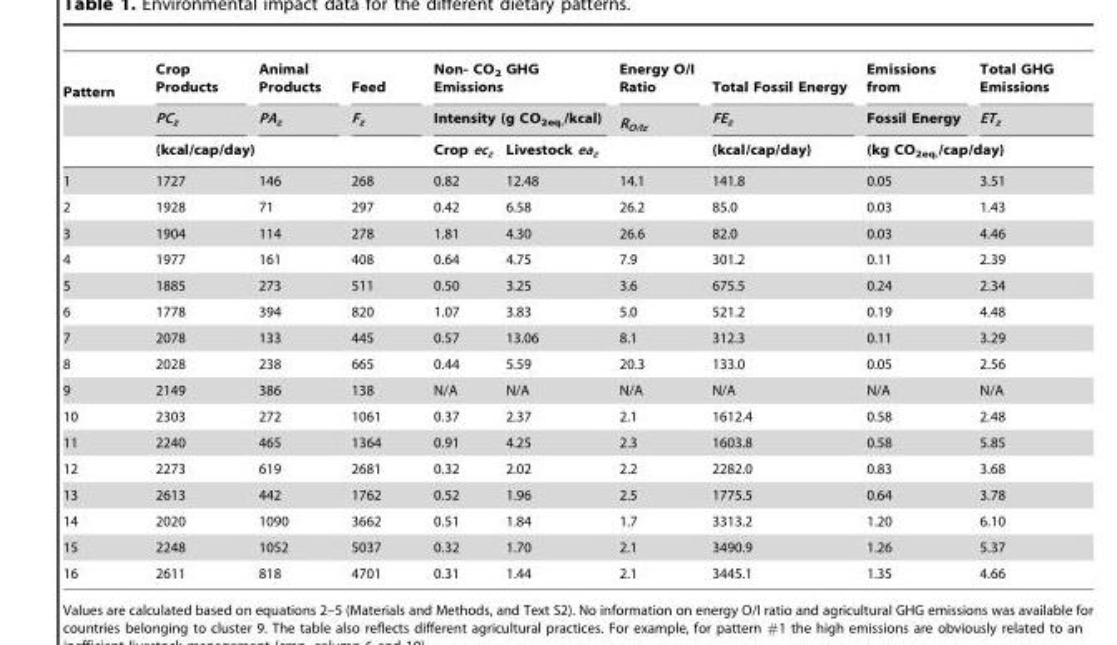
<table><thead><tr><td rowspan="3">Pattern</td><td rowspan="2">Crop Products PC<sub>z</sub></td><td rowspan="2">Animal Products PA<sub>z</sub></td><td rowspan="2">Feed F<sub>z</sub></td><td rowspan="2" colspan="2">Non- CO<sub>2</sub> GHG Emissions Intensity (g CO<sub>2eq.</sub>/kcal)</td><td rowspan="3">Energy O/I Ratio R<sub>O/Iz</sub></td><td rowspan="3">Total Fossil Energy FE<sub>z</sub> (kcal/cap/day)</td><td rowspan="2">Emissions from Fossil Energy</td><td rowspan="2">Total GHG Emissions ET<sub>z</sub></td></tr><tr></tr><tr><td colspan="3">(kcal/cap/day)</td><td>Crop ec<sub>z</sub></td><td>Livestock ea<sub>z</sub></td><td colspan="2">(kg CO<sub>2eq.</sub>/cap/day)</td></tr></thead><tbody><tr><td>1</td><td>1727</td><td>146</td><td>268</td><td>0.82</td><td>12.48</td><td>14.1</td><td>141.8</td><td>0.05</td><td>3.51</td></tr><tr><td>2</td><td>1928</td><td>71</td><td>297</td><td>0.42</td><td>6.58</td><td>26.2</td><td>85.0</td><td>0.03</td><td>1.43</td></tr><tr><td>3</td><td>1904</td><td>114</td><td>278</td><td>1.81</td><td>4.30</td><td>26.6</td><td>82.0</td><td>0.03</td><td>4.46</td></tr><tr><td>4</td><td>1977</td><td>161</td><td>408</td><td>0.64</td><td>4.75</td><td>7.9</td><td>301.2</td><td>0.11</td><td>2.39</td></tr><tr><td>5</td><td>1885</td><td>273</td><td>511</td><td>0.50</td><td>3.25</td><td>3.6</td><td>675.5</td><td>0.24</td><td>2.34</td></tr><tr><td>6</td><td>1778</td><td>394</td><td>820</td><td>1.07</td><td>3.83</td><td>5.0</td><td>521.2</td><td>0.19</td><td>4.48</td></tr><tr><td>7</td><td>2078</td><td>133</td><td>445</td><td>0.57</td><td>13.06</td><td>8.1</td><td>312.3</td><td>0.11</td><td>3.29</td></tr><tr><td>8</td><td>2028</td><td>238</td><td>665</td><td>0.44</td><td>5.59</td><td>20.3</td><td>133.0</td><td>0.05</td><td>2.56</td></tr><tr><td>9</td><td>2149</td><td>386</td><td>138</td><td>N/A</td><td>N/A</td><td>N/A</td><td>N/A</td><td>N/A</td><td>N/A</td></tr><tr><td>10</td><td>2303</td><td>272</td><td>1061</td><td>0.37</td><td>2.37</td><td>2.1</td><td>1612.4</td><td>0.58</td><td>2.48</td></tr><tr><td>11</td><td>2240</td><td>465</td><td>1364</td><td>0.91</td><td>4.25</td><td>2.3</td><td>1603.8</td><td>0.58</td><td>5.85</td></tr><tr><td>12</td><td>2273</td><td>619</td><td>2681</td><td>0.32</td><td>2.02</td><td>2.2</td><td>2282.0</td><td>0.83</td><td>3.68</td></tr><tr><td>13</td><td>2613</td><td>442</td><td>1762</td><td>0.52</td><td>1.96</td><td>2.5</td><td>1775.5</td><td>0.64</td><td>3.78</td></tr><tr><td>14</td><td>2020</td><td>1090</td><td>3662</td><td>0.51</td><td>1.84</td><td>1.7</td><td>3313.2</td><td>1.20</td><td>6.10</td></tr><tr><td>15</td><td>2248</td><td>1052</td><td>5037</td><td>0.32</td><td>1.70</td><td>2.1</td><td>3490.9</td><td>1.26</td><td>5.37</td></tr><tr><td>16</td><td>2611</td><td>818</td><td>4701</td><td>0.31</td><td>1.44</td><td>2.1</td><td>3445.1</td><td>1.35</td><td>4.66</td></tr></tbody></table>